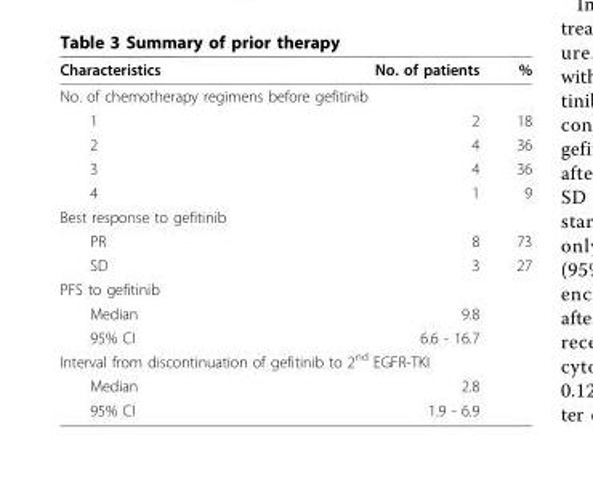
<table><thead><tr><td>Characteristics</td><td>No. of patients</td><td>%</td></tr></thead><tbody><tr><td colspan="3">No. of chemotherapy regimens before gefitinib</td></tr><tr><td>1</td><td>2</td><td>18</td></tr><tr><td>2</td><td>4</td><td>36</td></tr><tr><td>3</td><td>4</td><td>36</td></tr><tr><td>4</td><td>1</td><td>9</td></tr><tr><td colspan="3">Best response to gefitinib</td></tr><tr><td>PR</td><td>8</td><td>73</td></tr><tr><td>SD</td><td>3</td><td>27</td></tr><tr><td colspan="3">PFS to gefitinib</td></tr><tr><td>Median</td><td>9.8</td><td></td></tr><tr><td>95% CI</td><td>6.6 - 16.7</td><td></td></tr><tr><td colspan="3">Interval from discontinuation of gefitinib to 2<sup>nd</sup> EGFR-TKI</td></tr><tr><td>Median</td><td>2.8</td><td></td></tr><tr><td>95% CI</td><td>1.9 - 6.9</td><td></td></tr></tbody></table>